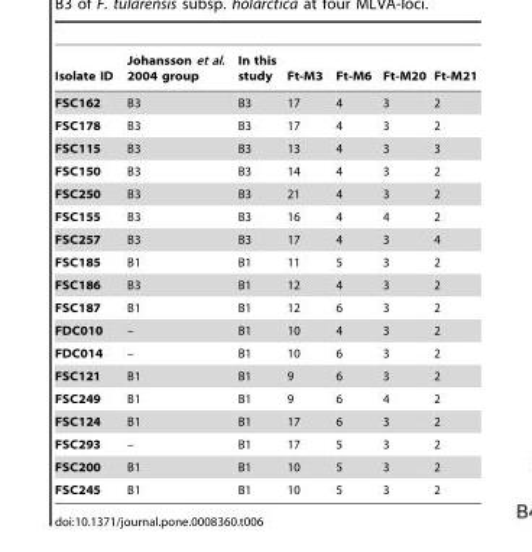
<table><thead><tr><td>Isolate ID</td><td>Johansson et al. 2004 group</td><td>In this study</td><td>Ft-M3</td><td>Ft-M6</td><td>Ft-M20</td><td>Ft-M21</td></tr></thead><tbody><tr><td>FSC162</td><td>B3</td><td>B3</td><td>17</td><td>4</td><td>3</td><td>2</td></tr><tr><td>FSC178</td><td>B3</td><td>B3</td><td>17</td><td>4</td><td>3</td><td>2</td></tr><tr><td>FSC115</td><td>B3</td><td>B3</td><td>13</td><td>4</td><td>3</td><td>3</td></tr><tr><td>FSC150</td><td>B3</td><td>B3</td><td>14</td><td>4</td><td>3</td><td>2</td></tr><tr><td>FSC250</td><td>B3</td><td>B3</td><td>21</td><td>4</td><td>3</td><td>2</td></tr><tr><td>FSC155</td><td>B3</td><td>B3</td><td>16</td><td>4</td><td>4</td><td>2</td></tr><tr><td>FSC257</td><td>B3</td><td>B3</td><td>17</td><td>4</td><td>3</td><td>4</td></tr><tr><td>FSC185</td><td>B1</td><td>B1</td><td>11</td><td>5</td><td>3</td><td>2</td></tr><tr><td>FSC186</td><td>B3</td><td>B1</td><td>12</td><td>4</td><td>3</td><td>2</td></tr><tr><td>FSC187</td><td>B1</td><td>B1</td><td>12</td><td>6</td><td>3</td><td>2</td></tr><tr><td>FDC010</td><td>–</td><td>B1</td><td>10</td><td>4</td><td>3</td><td>2</td></tr><tr><td>FDC014</td><td>–</td><td>B1</td><td>10</td><td>6</td><td>3</td><td>2</td></tr><tr><td>FSC121</td><td>B1</td><td>B1</td><td>9</td><td>6</td><td>3</td><td>2</td></tr><tr><td>FSC249</td><td>B1</td><td>B1</td><td>9</td><td>6</td><td>4</td><td>2</td></tr><tr><td>FSC124</td><td>B1</td><td>B1</td><td>17</td><td>6</td><td>3</td><td>2</td></tr><tr><td>FSC293</td><td>–</td><td>B1</td><td>17</td><td>5</td><td>3</td><td>2</td></tr><tr><td>FSC200</td><td>B1</td><td>B1</td><td>10</td><td>5</td><td>3</td><td>2</td></tr><tr><td>FSC245</td><td>B1</td><td>B1</td><td>10</td><td>5</td><td>3</td><td>2</td></tr></tbody></table>